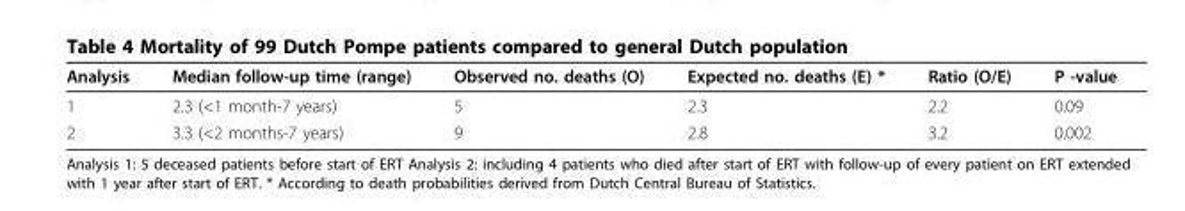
<table><thead><tr><td>Analysis</td><td>Median follow-up time (range)</td><td>Observed no. deaths (O)</td><td>Expected no. deaths (E) *</td><td>Ratio (O/E)</td><td>P -value</td></tr></thead><tbody><tr><td>1</td><td>2.3 (&lt;1 month-7 years)</td><td>5</td><td>2.3</td><td>2.2</td><td>0.09</td></tr><tr><td>2</td><td>3.3 (&lt;2 months-7 years)</td><td>9</td><td>2.8</td><td>3.2</td><td>0.002</td></tr></tbody></table>